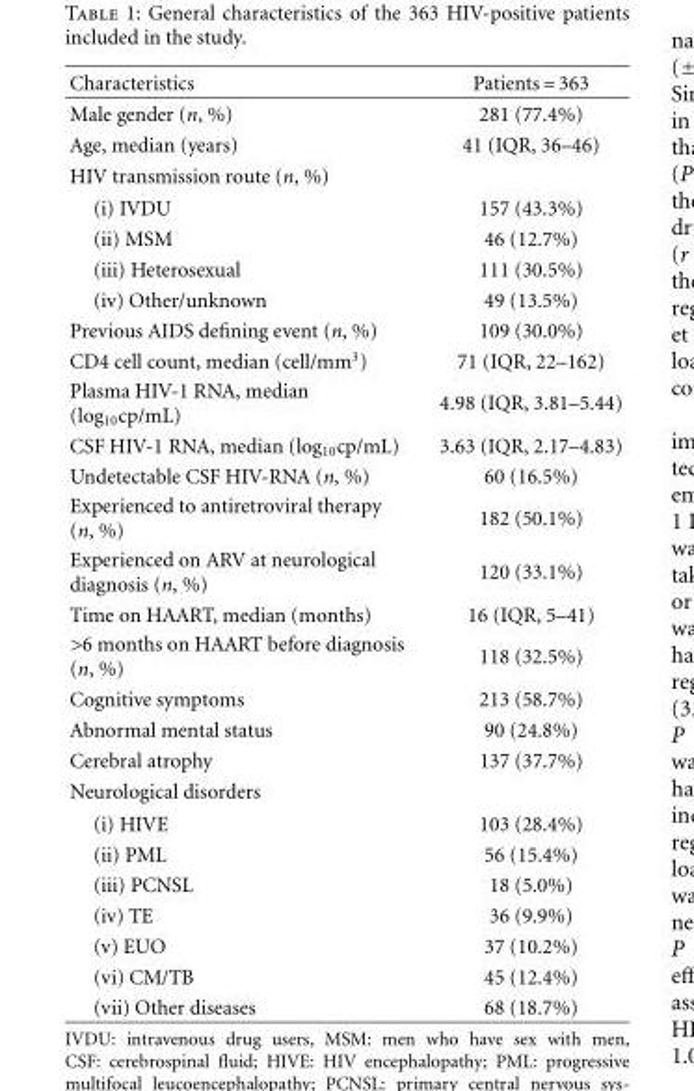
<table><thead><tr><td>Characteristics</td><td>Patients = 363</td></tr></thead><tbody><tr><td>Male gender (n, %)</td><td>281 (77.4%)</td></tr><tr><td>Age, median (years)</td><td>41 (IQR, 36–46)</td></tr><tr><td colspan="2">HIV transmission route (n, %)</td></tr><tr><td>(i) IVDU</td><td>157 (43.3%)</td></tr><tr><td>(ii) MSM</td><td>46 (12.7%)</td></tr><tr><td>(iii) Heterosexual</td><td>111 (30.5%)</td></tr><tr><td>(iv) Other/unknown</td><td>49 (13.5%)</td></tr><tr><td>Previous AIDS defining event (n, %)</td><td>109 (30.0%)</td></tr><tr><td>CD4 cell count, median (cell/mm<sup>3</sup>)</td><td>71 (IQR, 22–162)</td></tr><tr><td>Plasma HIV-1 RNA, median (log<sub>10</sub>cp/mL)</td><td>4.98 (IQR, 3.81–5.44)</td></tr><tr><td>CSF HIV-1 RNA, median (log<sub>10</sub>cp/mL)</td><td>3.63 (IQR, 2.17–4.83)</td></tr><tr><td>Undetectable CSF HIV-RNA (n, %)</td><td>60 (16.5%)</td></tr><tr><td>Experienced to antiretroviral therapy (n, %)</td><td>182 (50.1%)</td></tr><tr><td>Experienced on ARV at neurological diagnosis (n, %)</td><td>120 (33.1%)</td></tr><tr><td>Time on HAART, median (months)</td><td>16 (IQR, 5–41)</td></tr><tr><td>&gt;6 months on HAART before diagnosis (n, %)</td><td>118 (32.5%)</td></tr><tr><td>Cognitive symptoms</td><td>213 (58.7%)</td></tr><tr><td>Abnormal mental status</td><td>90 (24.8%)</td></tr><tr><td>Cerebral atrophy</td><td>137 (37.7%)</td></tr><tr><td colspan="2">Neurological disorders</td></tr><tr><td>(i) HIVE</td><td>103 (28.4%)</td></tr><tr><td>(ii) PML</td><td>56 (15.4%)</td></tr><tr><td>(iii) PCNSL</td><td>18 (5.0%)</td></tr><tr><td>(iv) TE</td><td>36 (9.9%)</td></tr><tr><td>(v) EUO</td><td>37 (10.2%)</td></tr><tr><td>(vi) CM/TB</td><td>45 (12.4%)</td></tr><tr><td>(vii) Other diseases</td><td>68 (18.7%)</td></tr></tbody></table>